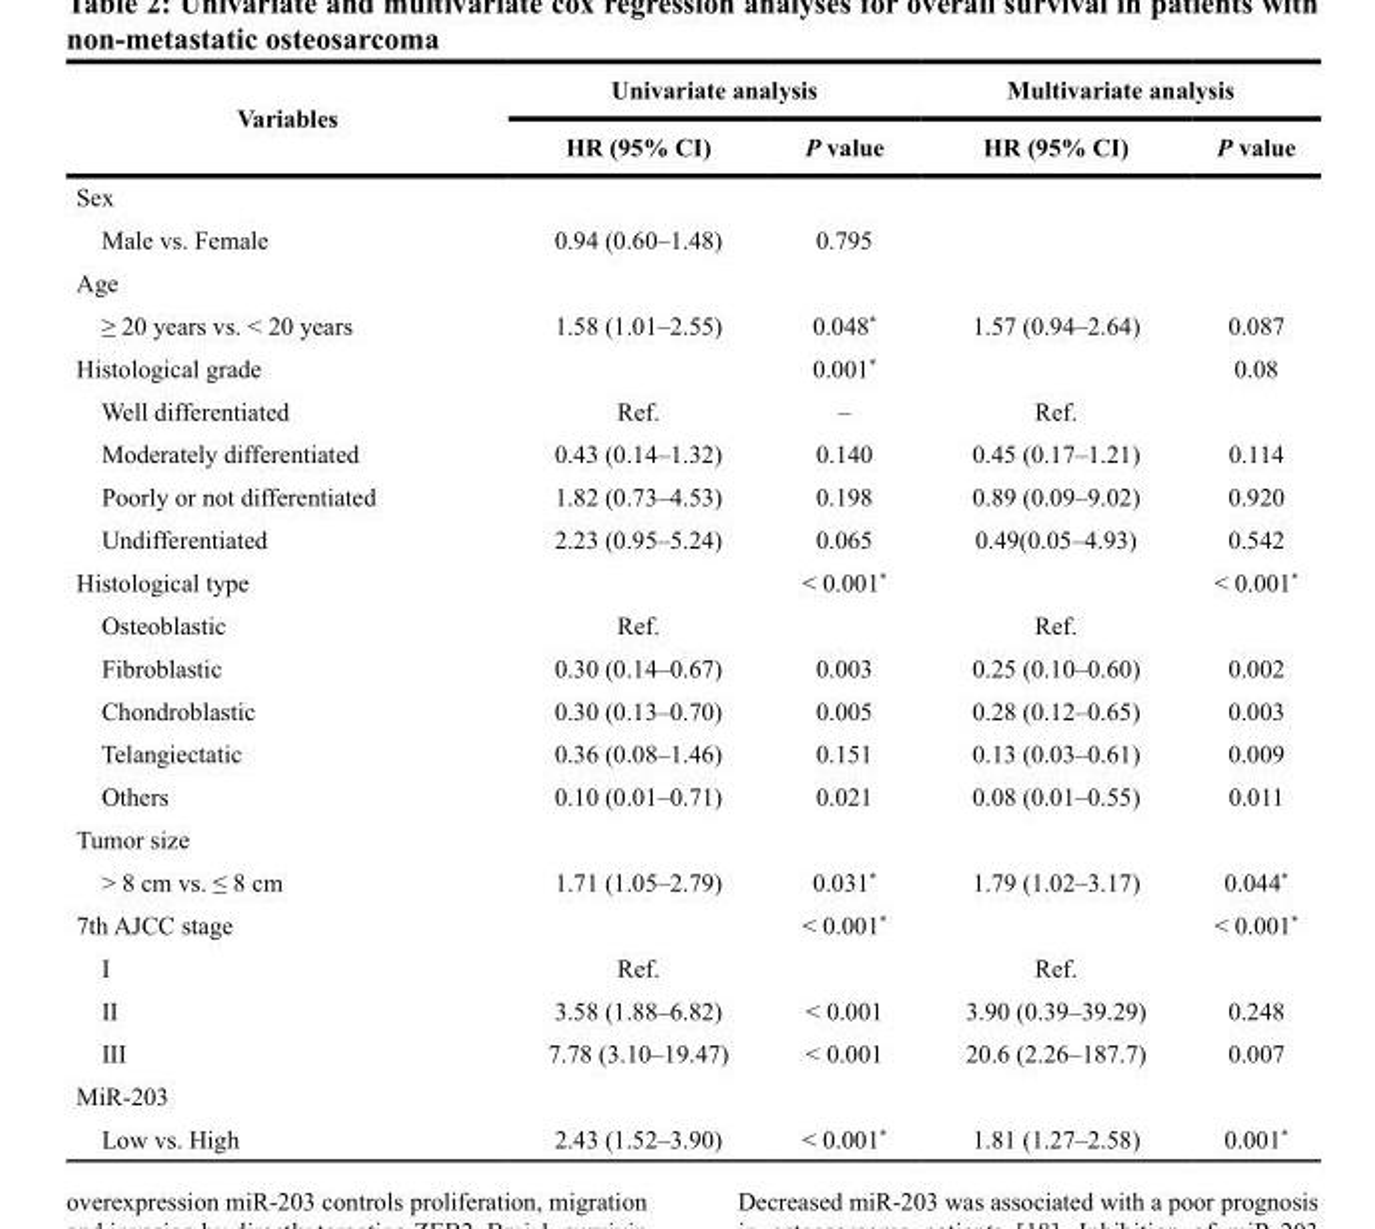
<table><thead><tr><td rowspan="2">Variables</td><td colspan="2">Univariate analysis</td><td colspan="2">Multivariate analysis</td></tr><tr><td>HR (95% CI)</td><td>P value</td><td>HR (95% CI)</td><td>P value</td></tr></thead><tbody><tr><td colspan="5">Sex</td></tr><tr><td>Male vs. Female</td><td>0.94 (0.60–1.48)</td><td>0.795</td><td></td><td></td></tr><tr><td colspan="5">Age</td></tr><tr><td>≥ 20 years vs. &lt; 20 years</td><td>1.58 (1.01–2.55)</td><td>0.048*</td><td>1.57 (0.94–2.64)</td><td>0.087</td></tr><tr><td>Histological grade</td><td></td><td>0.001*</td><td></td><td>0.08</td></tr><tr><td>Well differentiated</td><td>Ref.</td><td>–</td><td>Ref.</td><td></td></tr><tr><td>Moderately differentiated</td><td>0.43 (0.14–1.32)</td><td>0.140</td><td>0.45 (0.17–1.21)</td><td>0.114</td></tr><tr><td>Poorly or not differentiated</td><td>1.82 (0.73–4.53)</td><td>0.198</td><td>0.89 (0.09–9.02)</td><td>0.920</td></tr><tr><td>Undifferentiated</td><td>2.23 (0.95–5.24)</td><td>0.065</td><td>0.49(0.05–4.93)</td><td>0.542</td></tr><tr><td>Histological type</td><td></td><td>&lt; 0.001*</td><td></td><td>&lt; 0.001*</td></tr><tr><td>Osteoblastic</td><td>Ref.</td><td></td><td>Ref.</td><td></td></tr><tr><td>Fibroblastic</td><td>0.30 (0.14–0.67)</td><td>0.003</td><td>0.25 (0.10–0.60)</td><td>0.002</td></tr><tr><td>Chondroblastic</td><td>0.30 (0.13–0.70)</td><td>0.005</td><td>0.28 (0.12–0.65)</td><td>0.003</td></tr><tr><td>Telangiectatic</td><td>0.36 (0.08–1.46)</td><td>0.151</td><td>0.13 (0.03–0.61)</td><td>0.009</td></tr><tr><td>Others</td><td>0.10 (0.01–0.71)</td><td>0.021</td><td>0.08 (0.01–0.55)</td><td>0.011</td></tr><tr><td colspan="5">Tumor size</td></tr><tr><td>&gt; 8 cm vs. ≤ 8 cm</td><td>1.71 (1.05–2.79)</td><td>0.031*</td><td>1.79 (1.02–3.17)</td><td>0.044*</td></tr><tr><td>7th AJCC stage</td><td></td><td>&lt; 0.00<sup>1*</sup></td><td></td><td>&lt; 0.001*</td></tr><tr><td>I</td><td>Ref.</td><td></td><td>Ref.</td><td></td></tr><tr><td>II</td><td>3.58 (1.88–6.82)</td><td>&lt; 0.001</td><td>3.90 (0.39–39.29)</td><td>0.248</td></tr><tr><td>III</td><td>7.78 (3.10–19.47)</td><td>&lt; 0.001</td><td>20.6 (2.26–187.7)</td><td>0.007</td></tr><tr><td colspan="5">MiR-203</td></tr><tr><td>Low vs. High</td><td>2.43 (1.52–3.90)</td><td>&lt; 0.001*</td><td>1.81 (1.27–2.58)</td><td>0.001*</td></tr></tbody></table>